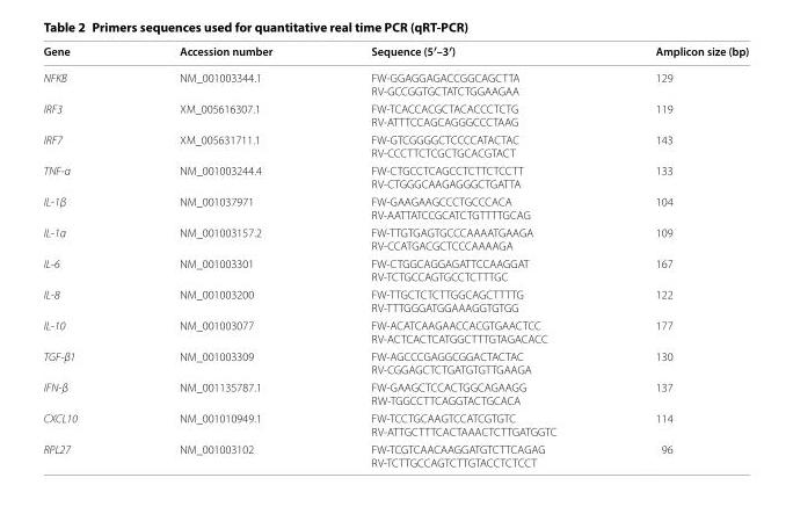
<table><thead><tr><td>Gene</td><td>Accession number</td><td>Sequence (5′–3′)</td><td>Amplicon size (bp)</td></tr></thead><tbody><tr><td>NFKB</td><td>NM_001003344.1</td><td>FW‑GGAGGAGACCGGCAGCTTA RV‑GCCGGTGCTATCTGGAAGAA</td><td>129</td></tr><tr><td>IRF3</td><td>XM_005616307.1</td><td>FW‑TCACCACGCTACACCCTCTG RV‑ATTTCCAGCAGGGCCCTAAG</td><td>119</td></tr><tr><td>IRF7</td><td>XM_005631711.1</td><td>FW‑GTCGGGGCTCCCCATACTAC RV‑CCCTTCTCGCTGCACGTACT</td><td>143</td></tr><tr><td>TNF‑α</td><td>NM_001003244.4</td><td>FW‑CTGCCTCAGCCTCTTCTCCTT RV‑CTGGGCAAGAGGGCTGATTA</td><td>133</td></tr><tr><td>IL‑1β</td><td>NM_001037971</td><td>FW‑GAAGAAGCCCTGCCCACA RV‑AATTATCCGCATCTGTTTTGCAG</td><td>104</td></tr><tr><td>IL‑1α</td><td>NM_001003157.2</td><td>FW‑TTGTGAGTGCCCAAAATGAAGA RV‑CCATGACGCTCCCAAAAGA</td><td>109</td></tr><tr><td>IL‑6</td><td>NM_001003301</td><td>FW‑CTGGCAGGAGATTCCAAGGAT RV‑TCTGCCAGTGCCTCTTTGC</td><td>167</td></tr><tr><td>IL‑8</td><td>NM_001003200</td><td>FW‑TTGCTCTCTTGGCAGCTTTTG RV‑TTTGGGATGGAAAGGTGTGG</td><td>122</td></tr><tr><td>IL‑10</td><td>NM_001003077</td><td>FW‑ACATCAAGAACCACGTGAACTCC RV‑ACTCACTCATGGCTTTGTAGACACC</td><td>177</td></tr><tr><td>TGF‑β1</td><td>NM_001003309</td><td>FW‑AGCCCGAGGCGGACTACTAC RV‑CGGAGCTCTGATGTGTTGAAGA</td><td>130</td></tr><tr><td>IFN‑β</td><td>NM_001135787.1</td><td>FW‑GAAGCTCCACTGGCAGAAGG RW‑TGGCCTTCAGGTACTGCACA</td><td>137</td></tr><tr><td>CXCL10</td><td>NM_001010949.1</td><td>FW‑TCCTGCAAGTCCATCGTGTC RV‑ATTGCTTTCACTAAACTCTTGATGGTC</td><td>114</td></tr><tr><td>RPL27</td><td>NM_001003102</td><td>FW‑TCGTCAACAAGGATGTCTTCAGAG RV‑TCTTGCCAGTCTTGTACCTCTCCT</td><td>96</td></tr></tbody></table>